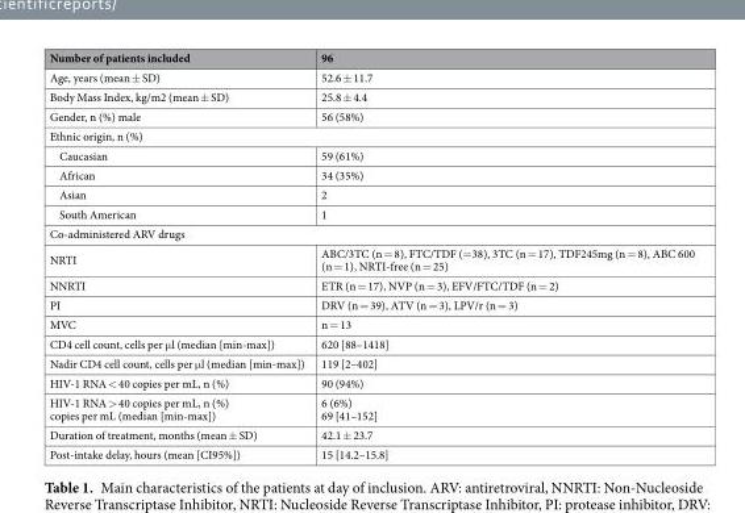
<table><thead><tr><td>Number of patients included</td><td>96</td></tr></thead><tbody><tr><td>Age, years (mean ± SD)</td><td>52.6 ± 11.7</td></tr><tr><td>Body Mass Index, kg/m2 (mean ± SD)</td><td>25.8 ± 4.4</td></tr><tr><td>Gender, n (%) male</td><td>56 (58%)</td></tr><tr><td colspan="2">Ethnic origin, n (%)</td></tr><tr><td>Caucasian</td><td>59 (61%)</td></tr><tr><td>African</td><td>34 (35%)</td></tr><tr><td>Asian</td><td>2</td></tr><tr><td>South American</td><td>1</td></tr><tr><td colspan="2">Co-administered ARV drugs</td></tr><tr><td>NRTI</td><td>ABC/3TC (n = 8), FTC/TDF (=38), 3TC (n = 17), TDF245mg (n = 8), ABC 600 (n = 1), NRTI-free (n = 25)</td></tr><tr><td>NNRTI</td><td>ETR (n = 17), NVP (n = 3), EFV/FTC/TDF (n = 2)</td></tr><tr><td>PI</td><td>DRV (n = 39), ATV (n = 3), LPV/r (n = 3)</td></tr><tr><td>MVC</td><td>n = 13</td></tr><tr><td>CD4 cell count, cells per μl (median [min-max])</td><td>620 [88–1418]</td></tr><tr><td>Nadir CD4 cell count, cells per μl (median [min-max])</td><td>119 [2–402]</td></tr><tr><td>HIV-1 RNA &lt; 40 copies per mL, n (%)</td><td>90 (94%)</td></tr><tr><td>HIV-1 RNA &gt; 40 copies per mL, n (%) copies per mL (median [min-max])</td><td>6 (6%) 69 [41–152]</td></tr><tr><td>Duration of treatment, months (mean ± SD)</td><td>42.1 ± 23.7</td></tr><tr><td>Post-intake delay, hours (mean [CI95%])</td><td>15 [14.2–15.8]</td></tr></tbody></table>